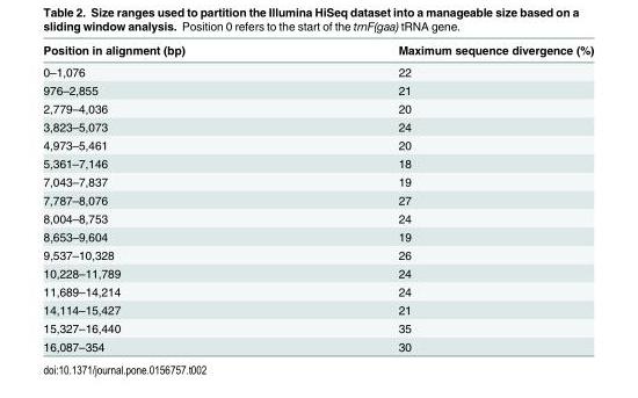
<table><thead><tr><td>Position in alignment (bp)</td><td>Maximum sequence divergence (%)</td></tr></thead><tbody><tr><td>0–1,076</td><td>22</td></tr><tr><td>976–2,855</td><td>21</td></tr><tr><td>2,779–4,036</td><td>20</td></tr><tr><td>3,823–5,073</td><td>24</td></tr><tr><td>4,973–5,461</td><td>20</td></tr><tr><td>5,361–7,146</td><td>18</td></tr><tr><td>7,043–7,837</td><td>19</td></tr><tr><td>7,787–8,076</td><td>27</td></tr><tr><td>8,004–8,753</td><td>24</td></tr><tr><td>8,653–9,604</td><td>19</td></tr><tr><td>9,537–10,328</td><td>26</td></tr><tr><td>10,228–11,789</td><td>24</td></tr><tr><td>11,689–14,214</td><td>24</td></tr><tr><td>14,114–15,427</td><td>21</td></tr><tr><td>15,327–16,440</td><td>35</td></tr><tr><td>16,087–354</td><td>30</td></tr></tbody></table>